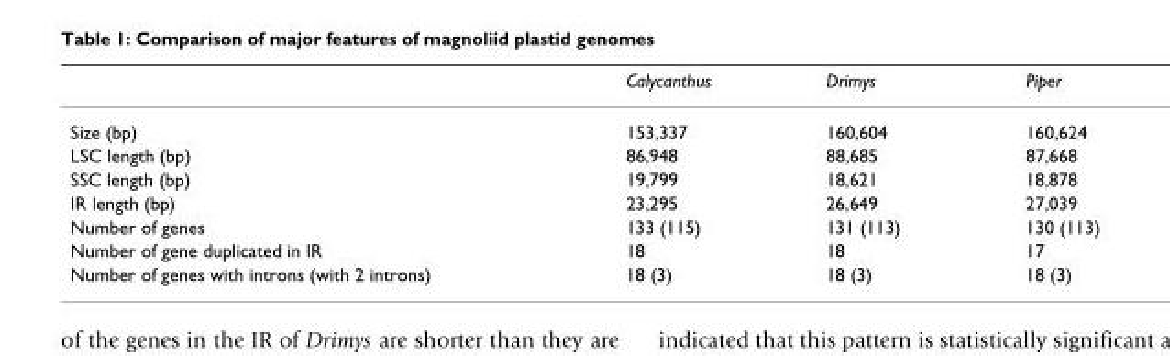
<table><thead><tr><td></td><td>Calycanthus</td><td>Drimys</td><td>Piper</td></tr></thead><tbody><tr><td>Size (bp)</td><td>153,337</td><td>160,604</td><td>160,624</td></tr><tr><td>LSC length (bp)</td><td>86,948</td><td>88,685</td><td>87,668</td></tr><tr><td>SSC length (bp)</td><td>19,799</td><td>18,621</td><td>18,878</td></tr><tr><td>IR length (bp)</td><td>23,295</td><td>26,649</td><td>27,039</td></tr><tr><td>Number of genes</td><td>133 (115)</td><td>131 (113)</td><td>130 (113)</td></tr><tr><td>Number of gene duplicated in IR</td><td>18</td><td>18</td><td>17</td></tr><tr><td>Number of genes with introns (with 2 introns)</td><td>18 (3)</td><td>18 (3)</td><td>18 (3)</td></tr></tbody></table>